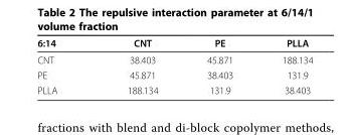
<table><thead><tr><td>6:14</td><td>CNT</td><td>PE</td><td>PLLA</td></tr></thead><tbody><tr><td>CNT</td><td>38.403</td><td>45.871</td><td>188.134</td></tr><tr><td>PE</td><td>45.871</td><td>38.403</td><td>131.9</td></tr><tr><td>PLLA</td><td>188.134</td><td>131.9</td><td>38.403</td></tr></tbody></table>